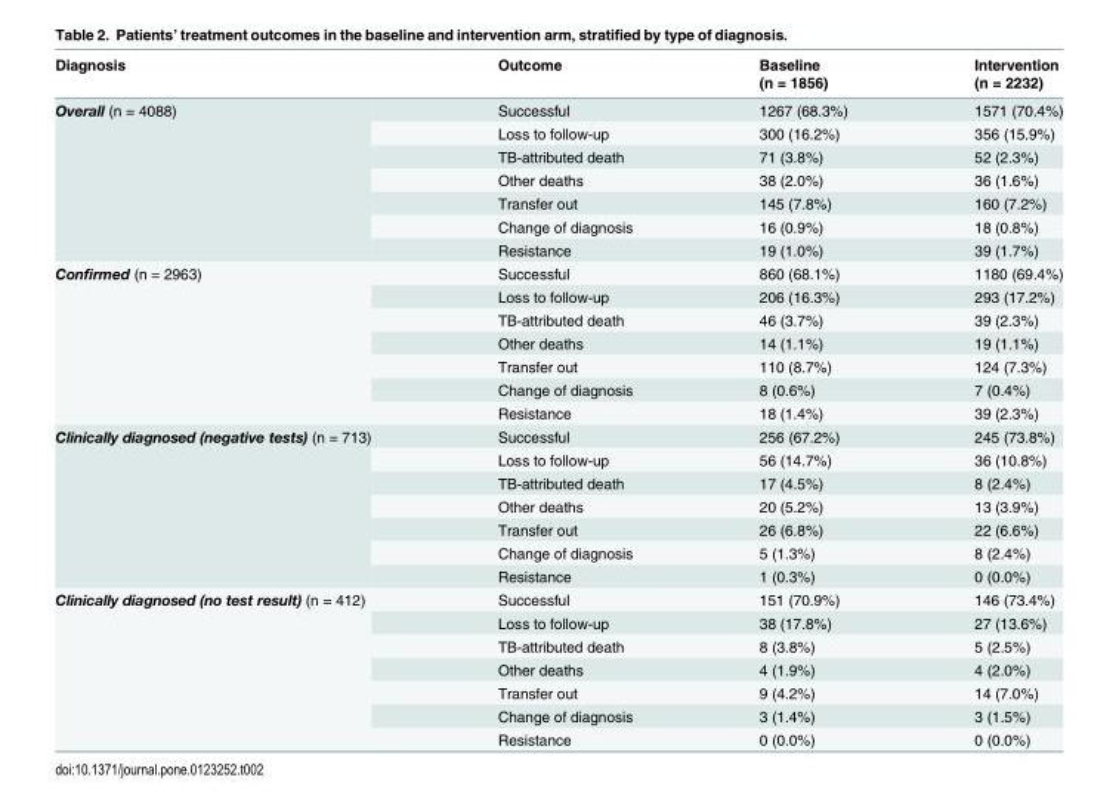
<table><thead><tr><td rowspan="2">Diagnosis</td><td rowspan="2">Outcome</td><td rowspan="2">Baseline (n = 1856)</td><td rowspan="2">Intervention (n = 2232)</td></tr><tr></tr></thead><tbody><tr><td rowspan="7">Overall (n = 4088)</td><td>Successful</td><td>1267 (68.3%)</td><td>1571 (70.4%)</td></tr><tr><td>Loss to follow-up</td><td>300 (16.2%)</td><td>356 (15.9%)</td></tr><tr><td>TB-attributed death</td><td>71 (3.8%)</td><td>52 (2.3%)</td></tr><tr><td>Other deaths</td><td>38 (2.0%)</td><td>36 (1.6%)</td></tr><tr><td>Transfer out</td><td>145 (7.8%)</td><td>160 (7.2%)</td></tr><tr><td>Change of diagnosis</td><td>16 (0.9%)</td><td>18 (0.8%)</td></tr><tr><td>Resistance</td><td>19 (1.0%)</td><td>39 (1.7%)</td></tr><tr><td rowspan="7">Confirmed (n = 2963)</td><td>Successful</td><td>860 (68.1%)</td><td>1180 (69.4%)</td></tr><tr><td>Loss to follow-up</td><td>206 (16.3%)</td><td>293 (17.2%)</td></tr><tr><td>TB-attributed death</td><td>46 (3.7%)</td><td>39 (2.3%)</td></tr><tr><td>Other deaths</td><td>14 (1.1%)</td><td>19 (1.1%)</td></tr><tr><td>Transfer out</td><td>110 (8.7%)</td><td>124 (7.3%)</td></tr><tr><td>Change of diagnosis</td><td>8 (0.6%)</td><td>7 (0.4%)</td></tr><tr><td>Resistance</td><td>18 (1.4%)</td><td>39 (2.3%)</td></tr><tr><td rowspan="7">Clinically diagnosed (negative tests) (n = 713)</td><td>Successful</td><td>256 (67.2%)</td><td>245 (73.8%)</td></tr><tr><td>Loss to follow-up</td><td>56 (14.7%)</td><td>36 (10.8%)</td></tr><tr><td>TB-attributed death</td><td>17 (4.5%)</td><td>8 (2.4%)</td></tr><tr><td>Other deaths</td><td>20 (5.2%)</td><td>13 (3.9%)</td></tr><tr><td>Transfer out</td><td>26 (6.8%)</td><td>22 (6.6%)</td></tr><tr><td>Change of diagnosis</td><td>5 (1.3%)</td><td>8 (2.4%)</td></tr><tr><td>Resistance</td><td>1 (0.3%)</td><td>0 (0.0%)</td></tr><tr><td rowspan="7">Clinically diagnosed (no test result) (n = 412)</td><td>Successful</td><td>151 (70.9%)</td><td>146 (73.4%)</td></tr><tr><td>Loss to follow-up</td><td>38 (17.8%)</td><td>27 (13.6%)</td></tr><tr><td>TB-attributed death</td><td>8 (3.8%)</td><td>5 (2.5%)</td></tr><tr><td>Other deaths</td><td>4 (1.9%)</td><td>4 (2.0%)</td></tr><tr><td>Transfer out</td><td>9 (4.2%)</td><td>14 (7.0%)</td></tr><tr><td>Change of diagnosis</td><td>3 (1.4%)</td><td>3 (1.5%)</td></tr><tr><td>Resistance</td><td>0 (0.0%)</td><td>0 (0.0%)</td></tr></tbody></table>